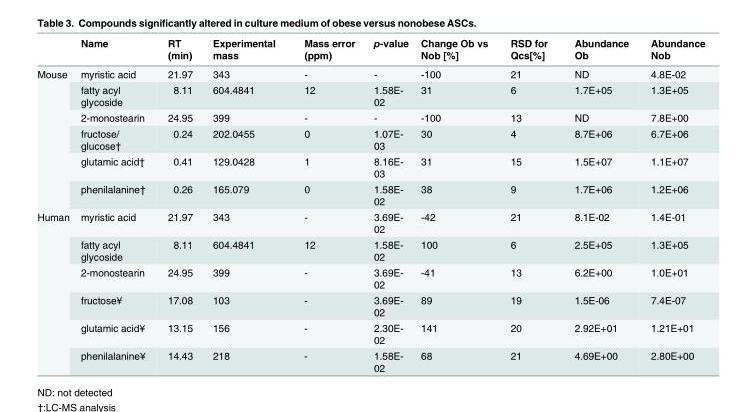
<table><thead><tr><td></td><td>Name</td><td>RT (min)</td><td>Experimental mass</td><td>Mass error (ppm)</td><td>p-value</td><td>Change Ob vs Nob [%]</td><td>RSD for Qcs[%]</td><td>Abundance Ob</td><td>Abundance Nob</td></tr></thead><tbody><tr><td rowspan="6">Mouse</td><td>myristic acid</td><td>21.97</td><td>343</td><td>-</td><td>-</td><td>-100</td><td>21</td><td>ND</td><td>4.8E-02</td></tr><tr><td>fatty acyl glycoside</td><td>8.11</td><td>604.4841</td><td>12</td><td>1.58E- 02</td><td>31</td><td>6</td><td>1.7E+05</td><td>1.3E+05</td></tr><tr><td>2-monostearin</td><td>24.95</td><td>399</td><td>-</td><td>-</td><td>-100</td><td>13</td><td>ND</td><td>7.8E+00</td></tr><tr><td>fructose/ glucose†</td><td>0.24</td><td>202.0455</td><td>0</td><td>1.07E- 03</td><td>30</td><td>4</td><td>8.7E+06</td><td>6.7E+06</td></tr><tr><td>glutamic acid†</td><td>0.41</td><td>129.0428</td><td>1</td><td>8.16E- 03</td><td>31</td><td>15</td><td>1.5E+07</td><td>1.1E+07</td></tr><tr><td>phenilalanine†</td><td>0.26</td><td>165.079</td><td>0</td><td>1.58E- 02</td><td>38</td><td>9</td><td>1.7E+06</td><td>1.2E+06</td></tr><tr><td rowspan="6">Human</td><td>myristic acid</td><td>21.97</td><td>343</td><td>-</td><td>3.69E- 02</td><td>-42</td><td>21</td><td>8.1E-02</td><td>1.4E-01</td></tr><tr><td>fatty acyl glycoside</td><td>8.11</td><td>604.4841</td><td>12</td><td>1.58E- 02</td><td>100</td><td>6</td><td>2.5E+05</td><td>1.3E+05</td></tr><tr><td>2-monostearin</td><td>24.95</td><td>399</td><td>-</td><td>3.69E- 02</td><td>-41</td><td>13</td><td>6.2E+00</td><td>1.0E+01</td></tr><tr><td>fructose¥</td><td>17.08</td><td>103</td><td>-</td><td>3.69E- 02</td><td>89</td><td>19</td><td>1.5E-06</td><td>7.4E-07</td></tr><tr><td>glutamic acid¥</td><td>13.15</td><td>156</td><td>-</td><td>2.30E- 02</td><td>141</td><td>20</td><td>2.92E+01</td><td>1.21E+01</td></tr><tr><td>phenilalanine¥</td><td>14.43</td><td>218</td><td>-</td><td>1.58E- 02</td><td>68</td><td>21</td><td>4.69E+00</td><td>2.80E+00</td></tr></tbody></table>